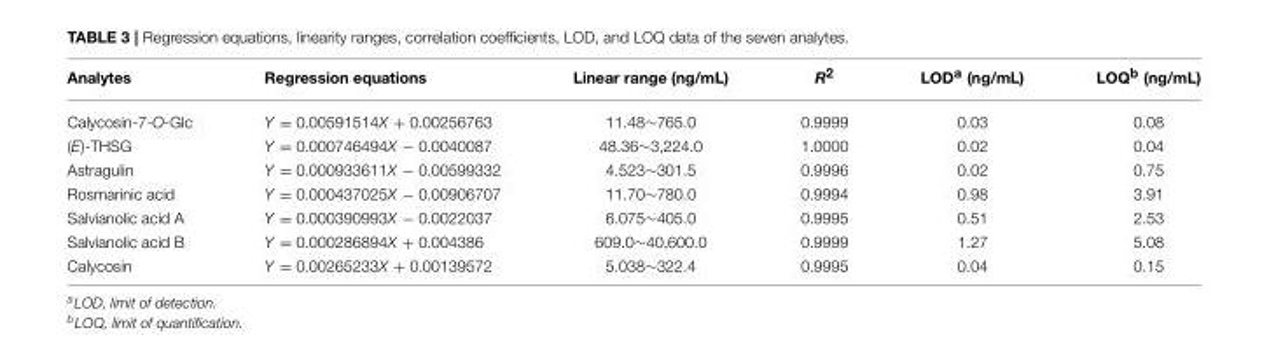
<table><thead><tr><td>Analytes</td><td>Regression equations</td><td>Linear range (ng/mL)</td><td>R<sup>2</sup></td><td>LOD<sup>a</sup> (ng/mL)</td><td>LOQ<sup>b</sup> (ng/mL)</td></tr></thead><tbody><tr><td>Calycosin-7-O-Glc</td><td>Y = 0.00591514X + 0.00256763</td><td>11.48∼765.0</td><td>0.9999</td><td>0.03</td><td>0.08</td></tr><tr><td>(E)-THSG</td><td>Y = 0.000746494X − 0.0040087</td><td>48.36∼3,224.0</td><td>1.0000</td><td>0.02</td><td>0.04</td></tr><tr><td>Astragulin</td><td>Y = 0.000933611X − 0.00599332</td><td>4.523∼301.5</td><td>0.9996</td><td>0.02</td><td>0.75</td></tr><tr><td>Rosmarinic acid</td><td>Y = 0.000437025X − 0.00906707</td><td>11.70∼780.0</td><td>0.9994</td><td>0.98</td><td>3.91</td></tr><tr><td>Salvianolic acid A</td><td>Y = 0.000390993X − 0.0022037</td><td>6.075∼405.0</td><td>0.9995</td><td>0.51</td><td>2.53</td></tr><tr><td>Salvianolic acid B</td><td>Y = 0.000286894X + 0.004386</td><td>609.0∼40,600.0</td><td>0.9999</td><td>1.27</td><td>5.08</td></tr><tr><td>Calycosin</td><td>Y = 0.00265233X + 0.00139572</td><td>5.038∼322.4</td><td>0.9995</td><td>0.04</td><td>0.15</td></tr></tbody></table>